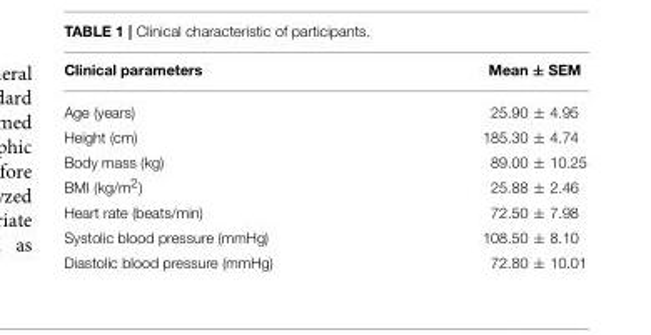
<table><thead><tr><td>Clinical parameters</td><td>Mean ± SEM</td></tr></thead><tbody><tr><td>Age (years)</td><td>25.90 ± 4.95</td></tr><tr><td>Height (cm)</td><td>185.30 ± 4.74</td></tr><tr><td>Body mass (kg)</td><td>89.00 ± 10.25</td></tr><tr><td>BMI (kg/m<sup>2</sup>)</td><td>25.88 ± 2.46</td></tr><tr><td>Heart rate (beats/min)</td><td>72.50 ± 7.98</td></tr><tr><td>Systolic blood pressure (mmHg)</td><td>108.50 ± 8.10</td></tr><tr><td>Diastolic blood pressure (mmHg)</td><td>72.80 ± 10.01</td></tr></tbody></table>